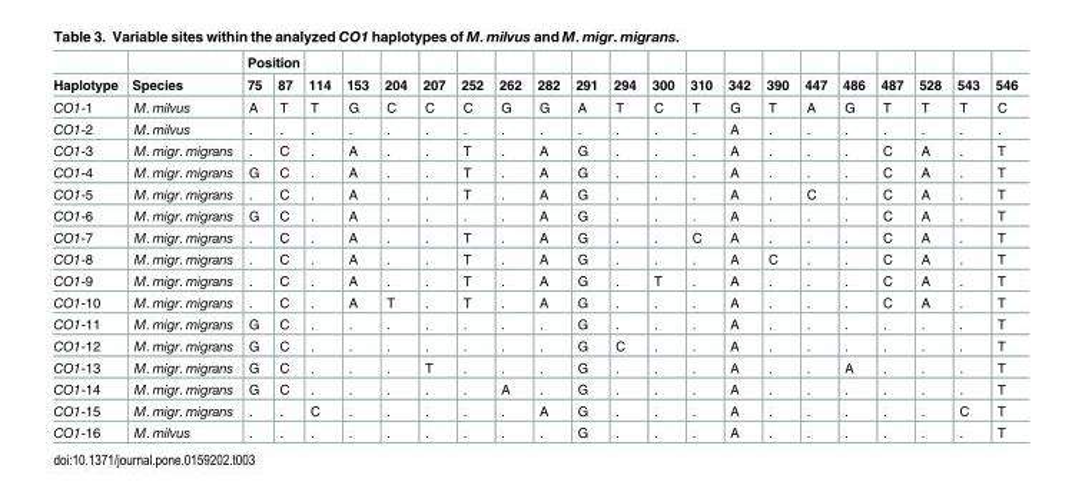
<table><thead><tr><td rowspan="2">Haplotype</td><td rowspan="2">Species</td><td colspan="2">Position</td><td rowspan="2">114</td><td rowspan="2">153</td><td rowspan="2">204</td><td rowspan="2">207</td><td rowspan="2">252</td><td rowspan="2">262</td><td rowspan="2">282</td><td rowspan="2">291</td><td rowspan="2">294</td><td rowspan="2">300</td><td rowspan="2">310</td><td rowspan="2">342</td><td rowspan="2">390</td><td rowspan="2">447</td><td rowspan="2">486</td><td rowspan="2">487</td><td rowspan="2">528</td><td rowspan="2">543</td><td rowspan="2">546</td></tr><tr><td>75</td><td>87</td></tr></thead><tbody><tr><td>CO1-1</td><td>M. milvus</td><td>A</td><td>T</td><td>T</td><td>G</td><td>C</td><td>C</td><td>C</td><td>G</td><td>G</td><td>A</td><td>T</td><td>C</td><td>T</td><td>G</td><td>T</td><td>A</td><td>G</td><td>T</td><td>T</td><td>T</td><td>C</td></tr><tr><td>CO1-2</td><td>M. milvus</td><td>.</td><td>.</td><td>.</td><td>.</td><td>.</td><td>.</td><td>.</td><td>.</td><td>.</td><td>.</td><td>.</td><td>.</td><td>.</td><td>A</td><td>.</td><td>.</td><td>.</td><td>.</td><td>.</td><td>.</td><td>.</td></tr><tr><td>CO1-3</td><td>M. migr. migrans</td><td>.</td><td>C</td><td>.</td><td>A</td><td>.</td><td>.</td><td>T</td><td>.</td><td>A</td><td>G</td><td>.</td><td>.</td><td>.</td><td>A</td><td>.</td><td>.</td><td>.</td><td>C</td><td>A</td><td>.</td><td>T</td></tr><tr><td>CO1-4</td><td>M. migr. migrans</td><td>G</td><td>C</td><td>.</td><td>A</td><td>.</td><td>.</td><td>T</td><td>.</td><td>A</td><td>G</td><td>.</td><td>.</td><td>.</td><td>A</td><td>.</td><td>.</td><td>.</td><td>C</td><td>A</td><td>.</td><td>T</td></tr><tr><td>CO1-5</td><td>M. migr. migrans</td><td>.</td><td>C</td><td>.</td><td>A</td><td>.</td><td>.</td><td>T</td><td>.</td><td>A</td><td>G</td><td>.</td><td>.</td><td>.</td><td>A</td><td>.</td><td>C</td><td>.</td><td>C</td><td>A</td><td>.</td><td>T</td></tr><tr><td>CO1-6</td><td>M. migr. migrans</td><td>G</td><td>C</td><td>.</td><td>A</td><td>.</td><td>.</td><td>.</td><td>.</td><td>A</td><td>G</td><td>.</td><td>.</td><td>.</td><td>A</td><td>.</td><td>.</td><td>.</td><td>C</td><td>A</td><td>.</td><td>T</td></tr><tr><td>CO1-7</td><td>M. migr. migrans</td><td>.</td><td>C</td><td>.</td><td>A</td><td>.</td><td>.</td><td>T</td><td>.</td><td>A</td><td>G</td><td>.</td><td>.</td><td>C</td><td>A</td><td>.</td><td>.</td><td>.</td><td>C</td><td>A</td><td>.</td><td>T</td></tr><tr><td>CO1-8</td><td>M. migr. migrans</td><td>.</td><td>C</td><td>.</td><td>A</td><td>.</td><td>.</td><td>T</td><td>.</td><td>A</td><td>G</td><td>.</td><td>.</td><td>.</td><td>A</td><td>C</td><td>.</td><td>.</td><td>C</td><td>A</td><td>.</td><td>T</td></tr><tr><td>CO1-9</td><td>M. migr. migrans</td><td>.</td><td>C</td><td>.</td><td>A</td><td>.</td><td>.</td><td>T</td><td>.</td><td>A</td><td>G</td><td>.</td><td>T</td><td>.</td><td>A</td><td>.</td><td>.</td><td>.</td><td>C</td><td>A</td><td>.</td><td>T</td></tr><tr><td>CO1-10</td><td>M. migr. migrans</td><td>.</td><td>C</td><td>.</td><td>A</td><td>T</td><td>.</td><td>T</td><td>.</td><td>A</td><td>G</td><td>.</td><td>.</td><td>.</td><td>A</td><td>.</td><td>.</td><td>.</td><td>C</td><td>A</td><td>.</td><td>T</td></tr><tr><td>CO1-11</td><td>M. migr. migrans</td><td>G</td><td>C</td><td>.</td><td>.</td><td>.</td><td>.</td><td>.</td><td>.</td><td>.</td><td>G</td><td>.</td><td>.</td><td>.</td><td>A</td><td>.</td><td>.</td><td>.</td><td>.</td><td>.</td><td>.</td><td>T</td></tr><tr><td>CO1-12</td><td>M. migr. migrans</td><td>G</td><td>C</td><td>.</td><td>.</td><td>.</td><td>.</td><td>.</td><td>.</td><td>.</td><td>G</td><td>C</td><td>.</td><td>.</td><td>A</td><td>.</td><td>.</td><td>.</td><td>.</td><td>.</td><td>.</td><td>T</td></tr><tr><td>CO1-13</td><td>M. migr. migrans</td><td>G</td><td>C</td><td>.</td><td>.</td><td>.</td><td>T</td><td>.</td><td>.</td><td>.</td><td>G</td><td>.</td><td>.</td><td>.</td><td>A</td><td>.</td><td>.</td><td>A</td><td>.</td><td>.</td><td>.</td><td>T</td></tr><tr><td>CO1-14</td><td>M. migr. migrans</td><td>G</td><td>C</td><td>.</td><td>.</td><td>.</td><td>.</td><td>.</td><td>A</td><td>.</td><td>G</td><td>.</td><td>.</td><td>.</td><td>A</td><td>.</td><td>.</td><td>.</td><td>.</td><td>.</td><td>.</td><td>T</td></tr><tr><td>CO1-15</td><td>M. migr. migrans</td><td>.</td><td>.</td><td>C</td><td>.</td><td>.</td><td>.</td><td>.</td><td>.</td><td>A</td><td>G</td><td>.</td><td>.</td><td>.</td><td>A</td><td>.</td><td>.</td><td>.</td><td>.</td><td>.</td><td>C</td><td>T</td></tr><tr><td>CO1-16</td><td>M. milvus</td><td>.</td><td>.</td><td>.</td><td>.</td><td>.</td><td>.</td><td>.</td><td>.</td><td>.</td><td>G</td><td>.</td><td>.</td><td>.</td><td>A</td><td>.</td><td>.</td><td>.</td><td>.</td><td>.</td><td>.</td><td>T</td></tr></tbody></table>